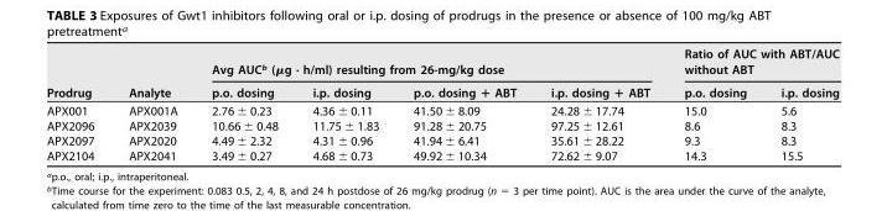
<table><thead><tr><td rowspan="2">Prodrug</td><td rowspan="2">Analyte</td><td colspan="4">Avg AUC<sup>b</sup> (μg · h/ml) resulting from 26-mg/kg dose</td><td colspan="2">Ratio of AUC with ABT/AUC without ABT</td></tr><tr><td>p.o. dosing</td><td>i.p. dosing</td><td>p.o. dosing + ABT</td><td>i.p. dosing + ABT</td><td>p.o. dosing</td><td>i.p. dosing</td></tr></thead><tbody><tr><td>APX001</td><td>APX001A</td><td>2.76 ± 0.23</td><td>4.36 ± 0.11</td><td>41.50 ± 8.09</td><td>24.28 ± 17.74</td><td>15.0</td><td>5.6</td></tr><tr><td>APX2096</td><td>APX2039</td><td>10.66 ± 0.48</td><td>11.75 ± 1.83</td><td>91.28 ± 20.75</td><td>97.25 ± 12.61</td><td>8.6</td><td>8.3</td></tr><tr><td>APX2097</td><td>APX2020</td><td>4.49 ± 2.32</td><td>4.31 ± 0.96</td><td>41.94 ± 6.41</td><td>35.61 ± 28.22</td><td>9.3</td><td>8.3</td></tr><tr><td>APX2104</td><td>APX2041</td><td>3.49 ± 0.27</td><td>4.68 ± 0.73</td><td>49.92 ± 10.34</td><td>72.62 ± 9.07</td><td>14.3</td><td>15.5</td></tr></tbody></table>